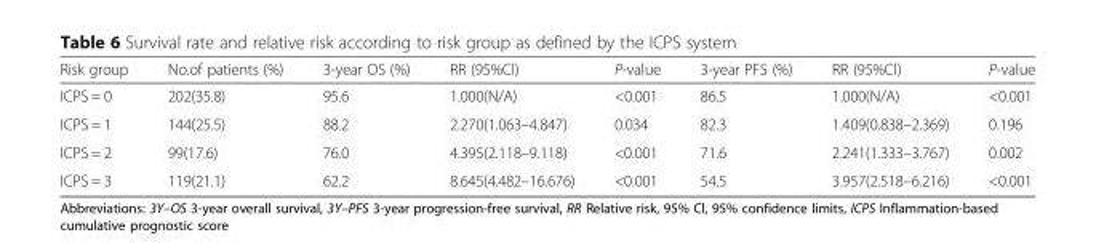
<table><thead><tr><td>Risk group</td><td>No.of patients (%)</td><td>3-year OS (%)</td><td>RR (95%Cl)</td><td>P-value</td><td>3-year PFS (%)</td><td>RR (95%Cl)</td><td>P-value</td></tr></thead><tbody><tr><td>ICPS = 0</td><td>202(35.8)</td><td>95.6</td><td>1.000(N/A)</td><td>&lt;0.001</td><td>86.5</td><td>1.000(N/A)</td><td>&lt;0.001</td></tr><tr><td>ICPS = 1</td><td>144(25.5)</td><td>88.2</td><td>2.270(1.063–4.847)</td><td>0.034</td><td>82.3</td><td>1.409(0.838–2.369)</td><td>0.196</td></tr><tr><td>ICPS = 2</td><td>99(17.6)</td><td>76.0</td><td>4.395(2.118–9.118)</td><td>&lt;0.001</td><td>71.6</td><td>2.241(1.333–3.767)</td><td>0.002</td></tr><tr><td>ICPS = 3</td><td>119(21.1)</td><td>62.2</td><td>8.645(4.482–16.676)</td><td>&lt;0.001</td><td>54.5</td><td>3.957(2.518–6.216)</td><td>&lt;0.001</td></tr></tbody></table>